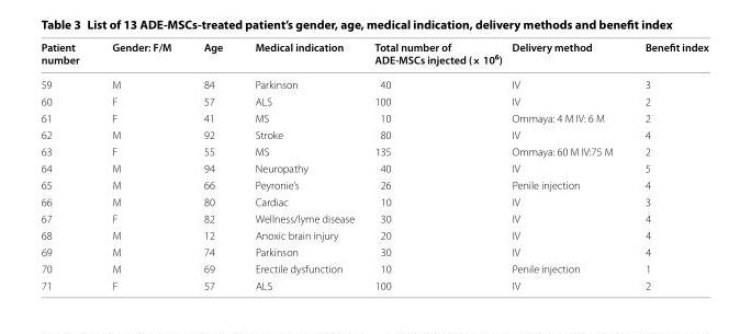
<table><thead><tr><td>Patient number</td><td>Gender: F/M</td><td>Age</td><td>Medical indication</td><td>Total number of ADE‑MSCs injected (× 10<sup>6</sup>)</td><td>Delivery method</td><td>Benefit index</td></tr></thead><tbody><tr><td>59</td><td>M</td><td>84</td><td>Parkinson</td><td>40</td><td>IV</td><td>3</td></tr><tr><td>60</td><td>F</td><td>57</td><td>ALS</td><td>100</td><td>IV</td><td>2</td></tr><tr><td>61</td><td>F</td><td>41</td><td>MS</td><td>10</td><td>Ommaya: 4 M IV: 6 M</td><td>2</td></tr><tr><td>62</td><td>M</td><td>92</td><td>Stroke</td><td>80</td><td>IV</td><td>4</td></tr><tr><td>63</td><td>F</td><td>55</td><td>MS</td><td>135</td><td>Ommaya: 60 M IV:75 M</td><td>2</td></tr><tr><td>64</td><td>M</td><td>94</td><td>Neuropathy</td><td>40</td><td>IV</td><td>5</td></tr><tr><td>65</td><td>M</td><td>66</td><td>Peyronie’s</td><td>26</td><td>Penile injection</td><td>4</td></tr><tr><td>66</td><td>M</td><td>80</td><td>Cardiac</td><td>10</td><td>IV</td><td>3</td></tr><tr><td>67</td><td>F</td><td>82</td><td>Wellness/lyme disease</td><td>30</td><td>IV</td><td>4</td></tr><tr><td>68</td><td>M</td><td>12</td><td>Anoxic brain injury</td><td>20</td><td>IV</td><td>4</td></tr><tr><td>69</td><td>M</td><td>74</td><td>Parkinson</td><td>30</td><td>IV</td><td>4</td></tr><tr><td>70</td><td>M</td><td>69</td><td>Erectile dysfunction</td><td>10</td><td>Penile injection</td><td>1</td></tr><tr><td>71</td><td>F</td><td>57</td><td>ALS</td><td>100</td><td>IV</td><td>2</td></tr></tbody></table>